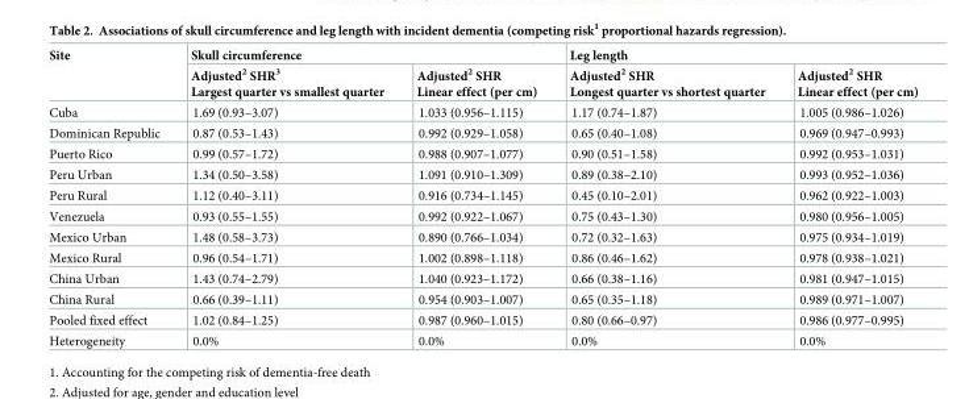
<table><thead><tr><td rowspan="2">Site</td><td colspan="2">Skull circumference</td><td colspan="2">Leg length</td></tr><tr><td>Adjusted<sup>2</sup> SHR<sup>3</sup> Largest quarter vs smallest quarter</td><td>Adjusted<sup>2</sup> SHR Linear effect (per cm)</td><td>Adjusted<sup>2</sup> SHR Longest quarter vs shortest quarter</td><td>Adjusted<sup>2</sup> SHR Linear effect (per cm)</td></tr></thead><tbody><tr><td>Cuba</td><td>1.69 (0.93–3.07)</td><td>1.033 (0.956–1.115)</td><td>1.17 (0.74–1.87)</td><td>1.005 (0.986–1.026)</td></tr><tr><td>Dominican Republic</td><td>0.87 (0.53–1.43)</td><td>0.992 (0.929–1.058)</td><td>0.65 (0.40–1.08)</td><td>0.969 (0.947–0.993)</td></tr><tr><td>Puerto Rico</td><td>0.99 (0.57–1.72)</td><td>0.988 (0.907–1.077)</td><td>0.90 (0.51–1.58)</td><td>0.992 (0.953–1.031)</td></tr><tr><td>Peru Urban</td><td>1.34 (0.50–3.58)</td><td>1.091 (0.910–1.309)</td><td>0.89 (0.38–2.10)</td><td>0.993 (0.952–1.036)</td></tr><tr><td>Peru Rural</td><td>1.12 (0.40–3.11)</td><td>0.916 (0.734–1.145)</td><td>0.45 (0.10–2.01)</td><td>0.962 (0.922–1.003)</td></tr><tr><td>Venezuela</td><td>0.93 (0.55–1.55)</td><td>0.992 (0.922–1.067)</td><td>0.75 (0.43–1.30)</td><td>0.980 (0.956–1.005)</td></tr><tr><td>Mexico Urban</td><td>1.48 (0.58–3.73)</td><td>0.890 (0.766–1.034)</td><td>0.72 (0.32–1.63)</td><td>0.975 (0.934–1.019)</td></tr><tr><td>Mexico Rural</td><td>0.96 (0.54–1.71)</td><td>1.002 (0.898–1.118)</td><td>0.86 (0.46–1.62)</td><td>0.978 (0.938–1.021)</td></tr><tr><td>China Urban</td><td>1.43 (0.74–2.79)</td><td>1.040 (0.923–1.172)</td><td>0.66 (0.38–1.16)</td><td>0.981 (0.947–1.015)</td></tr><tr><td>China Rural</td><td>0.66 (0.39–1.11)</td><td>0.954 (0.903–1.007)</td><td>0.65 (0.35–1.18)</td><td>0.989 (0.971–1.007)</td></tr><tr><td>Pooled fixed effect</td><td>1.02 (0.84–1.25)</td><td>0.987 (0.960–1.015)</td><td>0.80 (0.66–0.97)</td><td>0.986 (0.977–0.995)</td></tr><tr><td>Heterogeneity</td><td>0.0%</td><td>0.0%</td><td>0.0%</td><td>0.0%</td></tr></tbody></table>